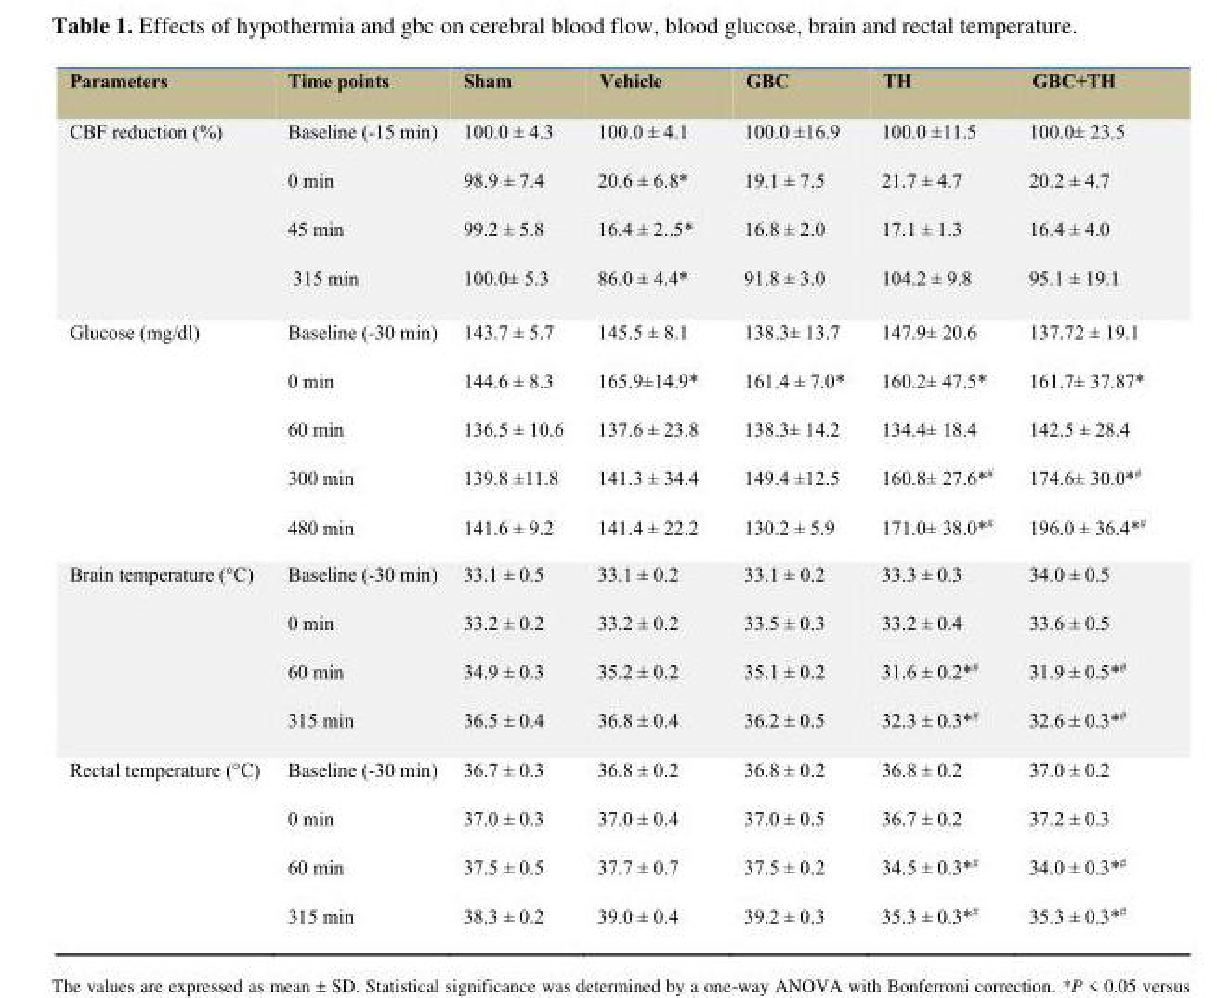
<table><thead><tr><td>Parameters</td><td>Time points</td><td>Sham</td><td>Vehicle</td><td>GBC</td><td>TH</td><td>GBC+TH</td></tr></thead><tbody><tr><td rowspan="4">CBF reduction (%)</td><td>Baseline (-15 min)</td><td>100.0 ± 4.3</td><td>100.0 ± 4.1</td><td>100.0 ±16.9</td><td>100.0 ±11.5</td><td>100.0± 23.5</td></tr><tr><td>0 min</td><td>98.9 ± 7.4</td><td>20.6 ± 6.8*</td><td>19.1 ± 7.5</td><td>21.7 ± 4.7</td><td>20.2 ± 4.7</td></tr><tr><td>45 min</td><td>99.2 ± 5.8</td><td>16.4 ± 2..5*</td><td>16.8 ± 2.0</td><td>17.1 ± 1.3</td><td>16.4 ± 4.0</td></tr><tr><td>315 min</td><td>100.0± 5.3</td><td>86.0 ± 4.4*</td><td>91.8 ± 3.0</td><td>104.2 ± 9.8</td><td>95.1 ± 19.1</td></tr><tr><td rowspan="5">Glucose (mg/dl)</td><td>Baseline (-30 min)</td><td>143.7 ± 5.7</td><td>145.5 ± 8.1</td><td>138.3± 13.7</td><td>147.9± 20.6</td><td>137.72 ± 19.1</td></tr><tr><td>0 min</td><td>144.6 ± 8.3</td><td>165.9±14.9*</td><td>161.4 ± 7.0*</td><td>160.2± 47.5*</td><td>161.7± 37.87*</td></tr><tr><td>60 min</td><td>136.5 ± 10.6</td><td>137.6 ± 23.8</td><td>138.3± 14.2</td><td>134.4± 18.4</td><td>142.5 ± 28.4</td></tr><tr><td>300 min</td><td>139.8 ±11.8</td><td>141.3 ± 34.4</td><td>149.4 ±12.5</td><td>160.8± 27.6*#</td><td>174.6± 30.0*#</td></tr><tr><td>480 min</td><td>141.6 ± 9.2</td><td>141.4 ± 22.2</td><td>130.2 ± 5.9</td><td>171.0± 38.0*#</td><td>196.0 ± 36.4*#</td></tr><tr><td rowspan="4">Brain temperature (°C)</td><td>Baseline (-30 min)</td><td>33.1 ± 0.5</td><td>33.1 ± 0.2</td><td>33.1 ± 0.2</td><td>33.3 ± 0.3</td><td>34.0 ± 0.5</td></tr><tr><td>0 min</td><td>33.2 ± 0.2</td><td>33.2 ± 0.2</td><td>33.5 ± 0.3</td><td>33.2 ± 0.4</td><td>33.6 ± 0.5</td></tr><tr><td>60 min</td><td>34.9 ± 0.3</td><td>35.2 ± 0.2</td><td>35.1 ± 0.2</td><td>31.6 ± 0.2*#</td><td>31.9 ± 0.5*#</td></tr><tr><td>315 min</td><td>36.5 ± 0.4</td><td>36.8 ± 0.4</td><td>36.2 ± 0.5</td><td>32.3 ± 0.3*#</td><td>32.6 ± 0.3*#</td></tr><tr><td rowspan="4">Rectal temperature (°C)</td><td>Baseline (-30 min)</td><td>36.7 ± 0.3</td><td>36.8 ± 0.2</td><td>36.8 ± 0.2</td><td>36.8 ± 0.2</td><td>37.0 ± 0.2</td></tr><tr><td>0 min</td><td>37.0 ± 0.3</td><td>37.0 ± 0.4</td><td>37.0 ± 0.5</td><td>36.7 ± 0.2</td><td>37.2 ± 0.3</td></tr><tr><td>60 min</td><td>37.5 ± 0.5</td><td>37.7 ± 0.7</td><td>37.5 ± 0.2</td><td>34.5 ± 0.3*#</td><td>34.0 ± 0.3*#</td></tr><tr><td>315 min</td><td>38.3 ± 0.2</td><td>39.0 ± 0.4</td><td>39.2 ± 0.3</td><td>35.3 ± 0.3*#</td><td>35.3 ± 0.3*#</td></tr></tbody></table>